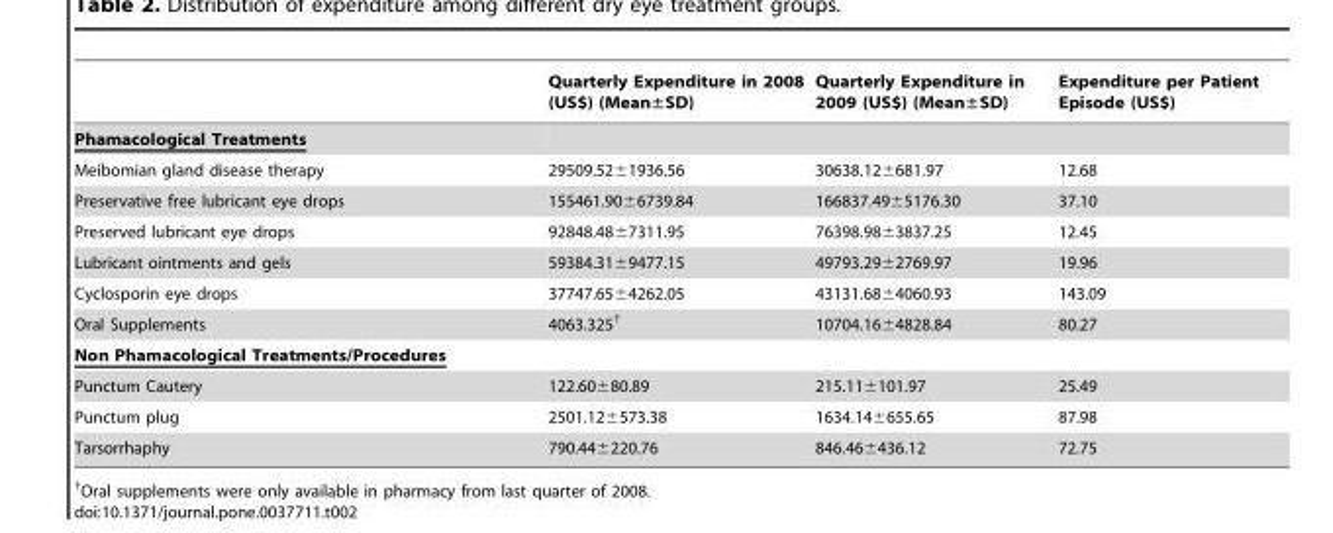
<table><thead><tr><td></td><td>Quarterly Expenditure in 2008 (US$) (Mean±SD)</td><td>Quarterly Expenditure in 2009 (US$) (Mean±SD)</td><td>Expenditure per Patient Episode (US$)</td></tr></thead><tbody><tr><td colspan="4">Phamacological Treatments</td></tr><tr><td>Meibomian gland disease therapy</td><td>29509.52±1936.56</td><td>30638.12±681.97</td><td>12.68</td></tr><tr><td>Preservative free lubricant eye drops</td><td>155461.90±6739.84</td><td>166837.49±5176.30</td><td>37.10</td></tr><tr><td>Preserved lubricant eye drops</td><td>92848.48±7311.95</td><td>76398.98±3837.25</td><td>12.45</td></tr><tr><td>Lubricant ointments and gels</td><td>59384.31±9477.15</td><td>49793.29±2769.97</td><td>19.96</td></tr><tr><td>Cyclosporin eye drops</td><td>37747.65±4262.05</td><td>43131.68±4060.93</td><td>143.09</td></tr><tr><td>Oral Supplements</td><td>4063.325†</td><td>10704.16±4828.84</td><td>80.27</td></tr><tr><td colspan="4">Non Phamacological Treatments/Procedures</td></tr><tr><td>Punctum Cautery</td><td>122.60±80.89</td><td>215.11±101.97</td><td>25.49</td></tr><tr><td>Punctum plug</td><td>2501.12±573.38</td><td>1634.14±655.65</td><td>87.98</td></tr><tr><td>Tarsorrhaphy</td><td>790.44±220.76</td><td>846.46±436.12</td><td>72.75</td></tr></tbody></table>